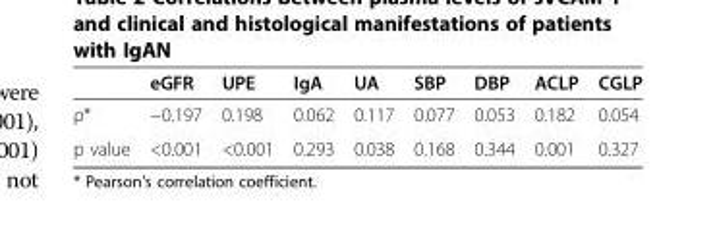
<table><thead><tr><td></td><td>eGFR</td><td>UPE</td><td>IgA</td><td>UA</td><td>SBP</td><td>DBP</td><td>ACLP</td><td>CGLP</td></tr></thead><tbody><tr><td>ρ*</td><td>−0.197</td><td>0.198</td><td>0.062</td><td>0.117</td><td>0.077</td><td>0.053</td><td>0.182</td><td>0.054</td></tr><tr><td>p value</td><td>&lt;0.001</td><td>&lt;0.001</td><td>0.293</td><td>0.038</td><td>0.168</td><td>0.344</td><td>0.001</td><td>0.327</td></tr></tbody></table>